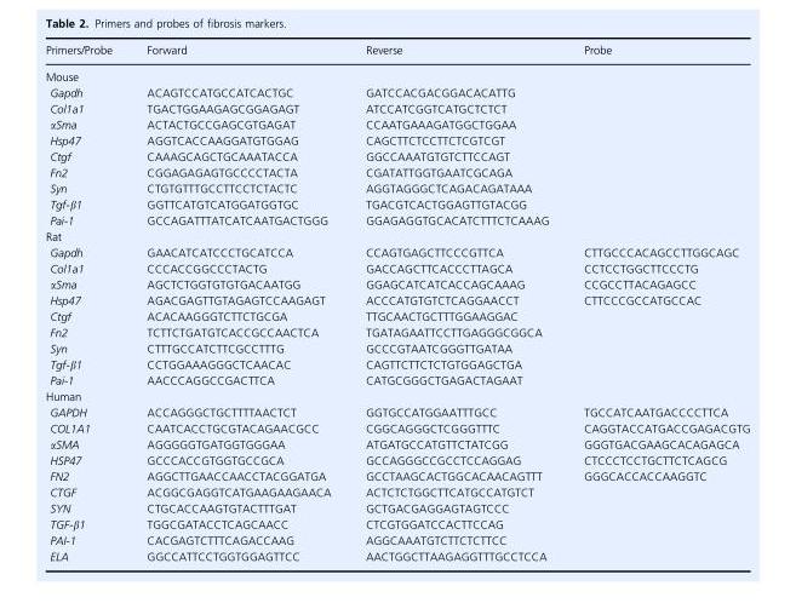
<table><thead><tr><td>Primers/Probe</td><td>Forward</td><td>Reverse</td><td>Probe</td></tr></thead><tbody><tr><td colspan="4">Mouse</td></tr><tr><td>Gapdh</td><td>ACAGTCCATGCCATCACTGC</td><td>GATCCACGACGGACACATTG</td><td></td></tr><tr><td>Col1a1</td><td>TGACTGGAAGAGCGGAGAGT</td><td>ATCCATCGGTCATGCTCTCT</td><td></td></tr><tr><td>αSma</td><td>ACTACTGCCGAGCGTGAGAT</td><td>CCAATGAAAGATGGCTGGAA</td><td></td></tr><tr><td>Hsp47</td><td>AGGTCACCAAGGATGTGGAG</td><td>CAGCTTCTCCTTCTCGTCGT</td><td></td></tr><tr><td>Ctgf</td><td>CAAAGCAGCTGCAAATACCA</td><td>GGCCAAATGTGTCTTCCAGT</td><td></td></tr><tr><td>Fn2</td><td>CGGAGAGAGTGCCCCTACTA</td><td>CGATATTGGTGAATCGCAGA</td><td></td></tr><tr><td>Syn</td><td>CTGTGTTTGCCTTCCTCTACTC</td><td>AGGTAGGGCTCAGACAGATAAA</td><td></td></tr><tr><td>Tgf-β1</td><td>GGTTCATGTCATGGATGGTGC</td><td>TGACGTCACTGGAGTTGTACGG</td><td></td></tr><tr><td>Pai-1</td><td>GCCAGATTTATCATCAATGACTGGG</td><td>GGAGAGGTGCACATCTTTCTCAAAG</td><td></td></tr><tr><td colspan="4">Rat</td></tr><tr><td>Gapdh</td><td>GAACATCATCCCTGCATCCA</td><td>CCAGTGAGCTTCCCGTTCA</td><td>CTTGCCCACAGCCTTGGCAGC</td></tr><tr><td>Col1a1</td><td>CCCACCGGCCCTACTG</td><td>GACCAGCTTCACCCTTAGCA</td><td>CCTCCTGGCTTCCCTG</td></tr><tr><td>αSma</td><td>AGCTCTGGTGTGTGACAATGG</td><td>GGAGCATCATCACCAGCAAAG</td><td>CCGCCTTACAGAGCC</td></tr><tr><td>Hsp47</td><td>AGACGAGTTGTAGAGTCCAAGAGT</td><td>ACCCATGTGTCTCAGGAACCT</td><td>CTTCCCGCCATGCCAC</td></tr><tr><td>Ctgf</td><td>ACACAAGGGTCTTCTGCGA</td><td>TTGCAACTGCTTTGGAAGGAC</td><td></td></tr><tr><td>Fn2</td><td>TCTTCTGATGTCACCGCCAACTCA</td><td>TGATAGAATTCCTTGAGGGCGGCA</td><td></td></tr><tr><td>Syn</td><td>CTTTGCCATCTTCGCCTTTG</td><td>GCCCGTAATCGGGTTGATAA</td><td></td></tr><tr><td>Tgf-β1</td><td>CCTGGAAAGGGCTCAACAC</td><td>CAGTTCTTCTCTGTGGAGCTGA</td><td></td></tr><tr><td>Pai-1</td><td>AACCCAGGCCGACTTCA</td><td>CATGCGGGCTGAGACTAGAAT</td><td></td></tr><tr><td colspan="4">Human</td></tr><tr><td>GAPDH</td><td>ACCAGGGCTGCTTTTAACTCT</td><td>GGTGCCATGGAATTTGCC</td><td>TGCCATCAATGACCCCTTCA</td></tr><tr><td>COL1A1</td><td>CAATCACCTGCGTACAGAACGCC</td><td>CGGCAGGGCTCGGGTTTC</td><td>CAGGTACCATGACCGAGACGTG</td></tr><tr><td>αSMA</td><td>AGGGGGTGATGGTGGGAA</td><td>ATGATGCCATGTTCTATCGG</td><td>GGGTGACGAAGCACAGAGCA</td></tr><tr><td>HSP47</td><td>GCCCACCGTGGTGCCGCA</td><td>GCCAGGGCCGCCTCCAGGAG</td><td>CTCCCTCCTGCTTCTCAGCG</td></tr><tr><td>FN2</td><td>AGGCTTGAACCAACCTACGGATGA</td><td>GCCTAAGCACTGGCACAACAGTTT</td><td rowspan="6">GGGCACCACCAAGGTC</td></tr><tr><td>CTGF</td><td>ACGGCGAGGTCATGAAGAAGAACA</td><td>ACTCTCTGGCTTCATGCCATGTCT</td></tr><tr><td>SYN</td><td>CTGCACCAAGTGTACTTTGAT</td><td>GCTGACGAGGAGTAGTCCC</td></tr><tr><td>TGF-β1</td><td>TGGCGATACCTCAGCAACC</td><td>CTCGTGGATCCACTTCCAG</td></tr><tr><td>PAI-1</td><td>CACGAGTCTTTCAGACCAAG</td><td>AGGCAAATGTCTTCTCTTCC</td></tr><tr><td>ELA</td><td>GGCCATTCCTGGTGGAGTTCC</td><td>AACTGGCTTAAGAGGTTTGCCTCCA</td></tr></tbody></table>